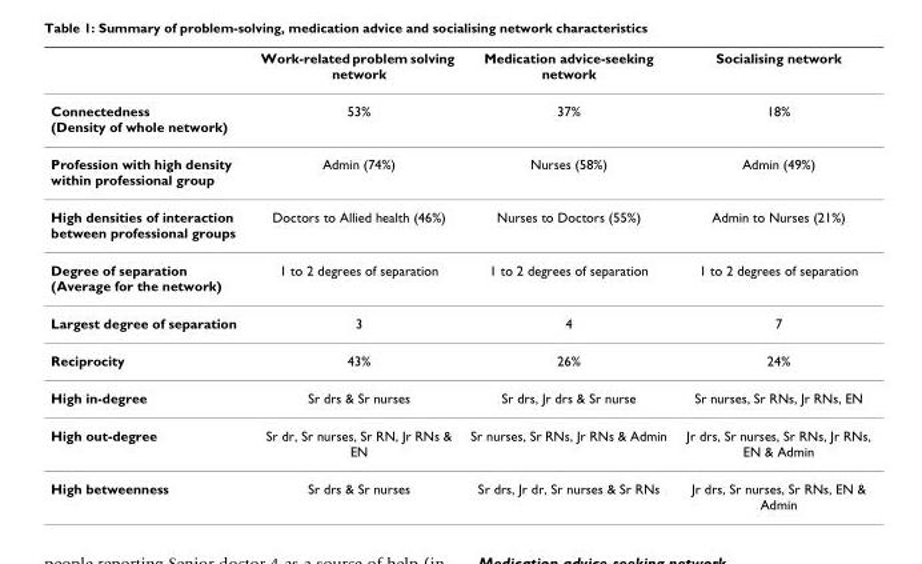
<table><thead><tr><td></td><td>Work-related problem solving network</td><td>Medication advice-seeking network</td><td>Socialising network</td></tr></thead><tbody><tr><td>Connectedness (Density of whole network)</td><td>53%</td><td>37%</td><td>18%</td></tr><tr><td>Profession with high density within professional group</td><td>Admin (74%)</td><td>Nurses (58%)</td><td>Admin (49%)</td></tr><tr><td>High densities of interaction between professional groups</td><td>Doctors to Allied health (46%)</td><td>Nurses to Doctors (55%)</td><td>Admin to Nurses (21%)</td></tr><tr><td>Degree of separation (Average for the network)</td><td>1 to 2 degrees of separation</td><td>1 to 2 degrees of separation</td><td>1 to 2 degrees of separation</td></tr><tr><td>Largest degree of separation</td><td>3</td><td>4</td><td>7</td></tr><tr><td>Reciprocity</td><td>43%</td><td>26%</td><td>24%</td></tr><tr><td>High in-degree</td><td>Sr drs &amp; Sr nurses</td><td>Sr drs, Jr drs &amp; Sr nurse</td><td>Sr nurses, Sr RNs, Jr RNs, EN</td></tr><tr><td>High out-degree</td><td>Sr dr, Sr nurses, Sr RN, Jr RNs &amp; EN</td><td>Sr nurses, Sr RNs, Jr RNs &amp; Admin</td><td>Jr drs, Sr nurses, Sr RNs, Jr RNs, EN &amp; Admin</td></tr><tr><td>High betweenness</td><td>Sr drs &amp; Sr nurses</td><td>Sr drs, Jr dr, Sr nurses &amp; Sr RNs</td><td>Jr drs, Sr nurses, Sr RNs, EN &amp; Admin</td></tr></tbody></table>